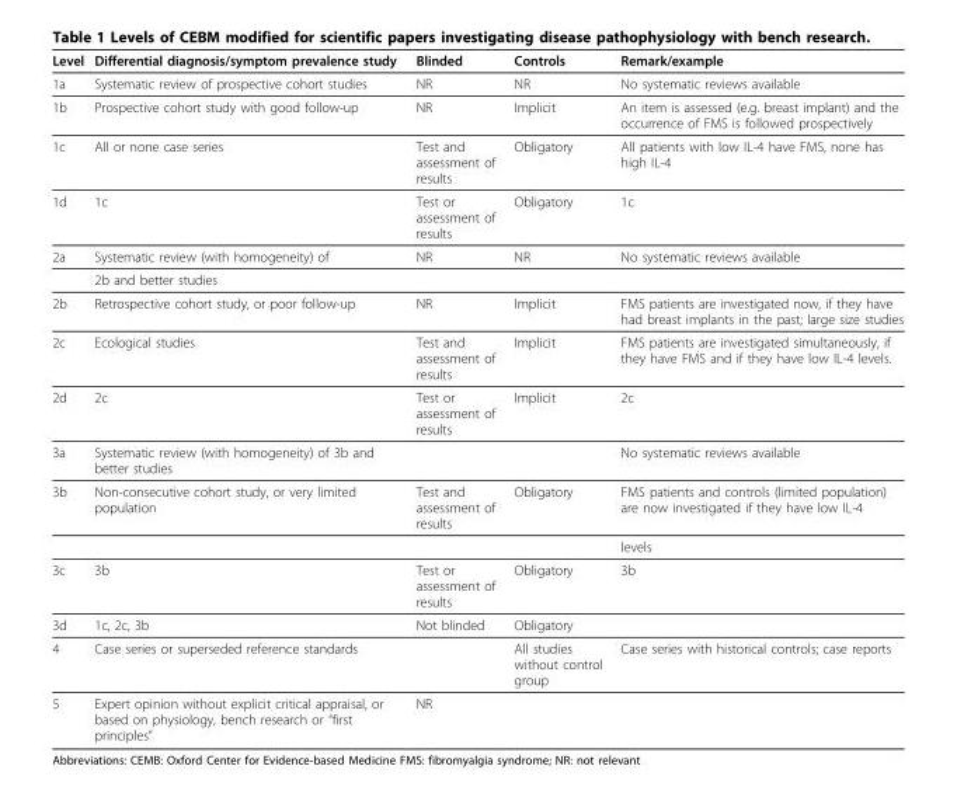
<table><thead><tr><td>Level</td><td>Differential diagnosis/symptom prevalence study</td><td>Blinded</td><td>Controls</td><td>Remark/example</td></tr></thead><tbody><tr><td>1a</td><td>Systematic review of prospective cohort studies</td><td>NR</td><td>NR</td><td>No systematic reviews available</td></tr><tr><td>1b</td><td>Prospective cohort study with good follow-up</td><td>NR</td><td>Implicit</td><td>An item is assessed (e.g. breast implant) and the occurrence of FMS is followed prospectively</td></tr><tr><td>1c</td><td>All or none case series</td><td>Test and assessment of results</td><td>Obligatory</td><td>All patients with low IL-4 have FMS, none has high IL-4</td></tr><tr><td>1d</td><td>1c</td><td>Test or assessment of results</td><td>Obligatory</td><td>1c</td></tr><tr><td rowspan="2">2a</td><td>Systematic review (with homogeneity) of</td><td>NR</td><td>NR</td><td>No systematic reviews available</td></tr><tr><td>2b and better studies</td><td></td><td></td><td></td></tr><tr><td>2b</td><td>Retrospective cohort study, or poor follow-up</td><td>NR</td><td>Implicit</td><td>FMS patients are investigated now, if they have had breast implants in the past; large size studies</td></tr><tr><td>2c</td><td>Ecological studies</td><td>Test and assessment of results</td><td>Implicit</td><td>FMS patients are investigated simultaneously, if they have FMS and if they have low IL-4 levels.</td></tr><tr><td>2d</td><td>2c</td><td>Test or assessment of results</td><td>Implicit</td><td>2c</td></tr><tr><td>3a</td><td>Systematic review (with homogeneity) of 3b and better studies</td><td></td><td></td><td>No systematic reviews available</td></tr><tr><td rowspan="2">3b</td><td>Non-consecutive cohort study, or very limited population</td><td>Test and assessment of results</td><td>Obligatory</td><td>FMS patients and controls (limited population) are now investigated if they have low IL-4</td></tr><tr><td></td><td></td><td></td><td>levels</td></tr><tr><td>3c</td><td>3b</td><td>Test or assessment of results</td><td>Obligatory</td><td>3b</td></tr><tr><td>3d</td><td>1c, 2c, 3b</td><td>Not blinded</td><td>Obligatory</td><td></td></tr><tr><td>4</td><td>Case series or superseded reference standards</td><td></td><td>All studies without control group</td><td>Case series with historical controls; case reports</td></tr><tr><td>5</td><td>Expert opinion without explicit critical appraisal, or based on physiology, bench research or “first principles”</td><td>NR</td><td></td><td></td></tr></tbody></table>